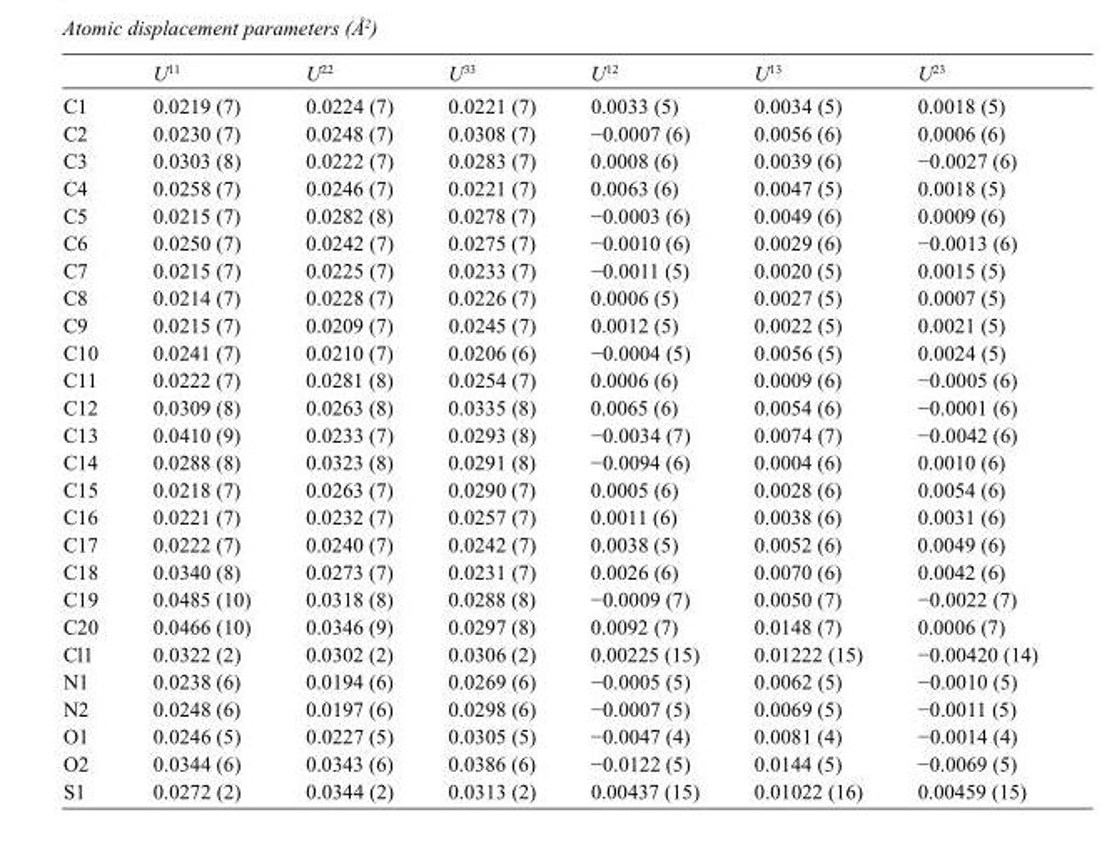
<table><thead><tr><td></td><td>U<sup>11</sup></td><td>U<sup>22</sup></td><td>U<sup>33</sup></td><td>U<sup>12</sup></td><td>U<sup>13</sup></td><td>U<sup>23</sup></td></tr></thead><tbody><tr><td>C1</td><td>0.0219 (7)</td><td>0.0224 (7)</td><td>0.0221 (7)</td><td>0.0033 (5)</td><td>0.0034 (5)</td><td>0.0018 (5)</td></tr><tr><td>C2</td><td>0.0230 (7)</td><td>0.0248 (7)</td><td>0.0308 (7)</td><td>−0.0007 (6)</td><td>0.0056 (6)</td><td>0.0006 (6)</td></tr><tr><td>C3</td><td>0.0303 (8)</td><td>0.0222 (7)</td><td>0.0283 (7)</td><td>0.0008 (6)</td><td>0.0039 (6)</td><td>−0.0027 (6)</td></tr><tr><td>C4</td><td>0.0258 (7)</td><td>0.0246 (7)</td><td>0.0221 (7)</td><td>0.0063 (6)</td><td>0.0047 (5)</td><td>0.0018 (5)</td></tr><tr><td>C5</td><td>0.0215 (7)</td><td>0.0282 (8)</td><td>0.0278 (7)</td><td>−0.0003 (6)</td><td>0.0049 (6)</td><td>0.0009 (6)</td></tr><tr><td>C6</td><td>0.0250 (7)</td><td>0.0242 (7)</td><td>0.0275 (7)</td><td>−0.0010 (6)</td><td>0.0029 (6)</td><td>−0.0013 (6)</td></tr><tr><td>C7</td><td>0.0215 (7)</td><td>0.0225 (7)</td><td>0.0233 (7)</td><td>−0.0011 (5)</td><td>0.0020 (5)</td><td>0.0015 (5)</td></tr><tr><td>C8</td><td>0.0214 (7)</td><td>0.0228 (7)</td><td>0.0226 (7)</td><td>0.0006 (5)</td><td>0.0027 (5)</td><td>0.0007 (5)</td></tr><tr><td>C9</td><td>0.0215 (7)</td><td>0.0209 (7)</td><td>0.0245 (7)</td><td>0.0012 (5)</td><td>0.0022 (5)</td><td>0.0021 (5)</td></tr><tr><td>C10</td><td>0.0241 (7)</td><td>0.0210 (7)</td><td>0.0206 (6)</td><td>−0.0004 (5)</td><td>0.0056 (5)</td><td>0.0024 (5)</td></tr><tr><td>C11</td><td>0.0222 (7)</td><td>0.0281 (8)</td><td>0.0254 (7)</td><td>0.0006 (6)</td><td>0.0009 (6)</td><td>−0.0005 (6)</td></tr><tr><td>C12</td><td>0.0309 (8)</td><td>0.0263 (8)</td><td>0.0335 (8)</td><td>0.0065 (6)</td><td>0.0054 (6)</td><td>−0.0001 (6)</td></tr><tr><td>C13</td><td>0.0410 (9)</td><td>0.0233 (7)</td><td>0.0293 (8)</td><td>−0.0034 (7)</td><td>0.0074 (7)</td><td>−0.0042 (6)</td></tr><tr><td>C14</td><td>0.0288 (8)</td><td>0.0323 (8)</td><td>0.0291 (8)</td><td>−0.0094 (6)</td><td>0.0004 (6)</td><td>0.0010 (6)</td></tr><tr><td>C15</td><td>0.0218 (7)</td><td>0.0263 (7)</td><td>0.0290 (7)</td><td>0.0005 (6)</td><td>0.0028 (6)</td><td>0.0054 (6)</td></tr><tr><td>C16</td><td>0.0221 (7)</td><td>0.0232 (7)</td><td>0.0257 (7)</td><td>0.0011 (6)</td><td>0.0038 (6)</td><td>0.0031 (6)</td></tr><tr><td>C17</td><td>0.0222 (7)</td><td>0.0240 (7)</td><td>0.0242 (7)</td><td>0.0038 (5)</td><td>0.0052 (6)</td><td>0.0049 (6)</td></tr><tr><td>C18</td><td>0.0340 (8)</td><td>0.0273 (7)</td><td>0.0231 (7)</td><td>0.0026 (6)</td><td>0.0070 (6)</td><td>0.0042 (6)</td></tr><tr><td>C19</td><td>0.0485 (10)</td><td>0.0318 (8)</td><td>0.0288 (8)</td><td>−0.0009 (7)</td><td>0.0050 (7)</td><td>−0.0022 (7)</td></tr><tr><td>C20</td><td>0.0466 (10)</td><td>0.0346 (9)</td><td>0.0297 (8)</td><td>0.0092 (7)</td><td>0.0148 (7)</td><td>0.0006 (7)</td></tr><tr><td>Cl1</td><td>0.0322 (2)</td><td>0.0302 (2)</td><td>0.0306 (2)</td><td>0.00225 (15)</td><td>0.01222 (15)</td><td>−0.00420 (14)</td></tr><tr><td>N1</td><td>0.0238 (6)</td><td>0.0194 (6)</td><td>0.0269 (6)</td><td>−0.0005 (5)</td><td>0.0062 (5)</td><td>−0.0010 (5)</td></tr><tr><td>N2</td><td>0.0248 (6)</td><td>0.0197 (6)</td><td>0.0298 (6)</td><td>−0.0007 (5)</td><td>0.0069 (5)</td><td>−0.0011 (5)</td></tr><tr><td>O1</td><td>0.0246 (5)</td><td>0.0227 (5)</td><td>0.0305 (5)</td><td>−0.0047 (4)</td><td>0.0081 (4)</td><td>−0.0014 (4)</td></tr><tr><td>O2</td><td>0.0344 (6)</td><td>0.0343 (6)</td><td>0.0386 (6)</td><td>−0.0122 (5)</td><td>0.0144 (5)</td><td>−0.0069 (5)</td></tr><tr><td>S1</td><td>0.0272 (2)</td><td>0.0344 (2)</td><td>0.0313 (2)</td><td>0.00437 (15)</td><td>0.01022 (16)</td><td>0.00459 (15)</td></tr></tbody></table>